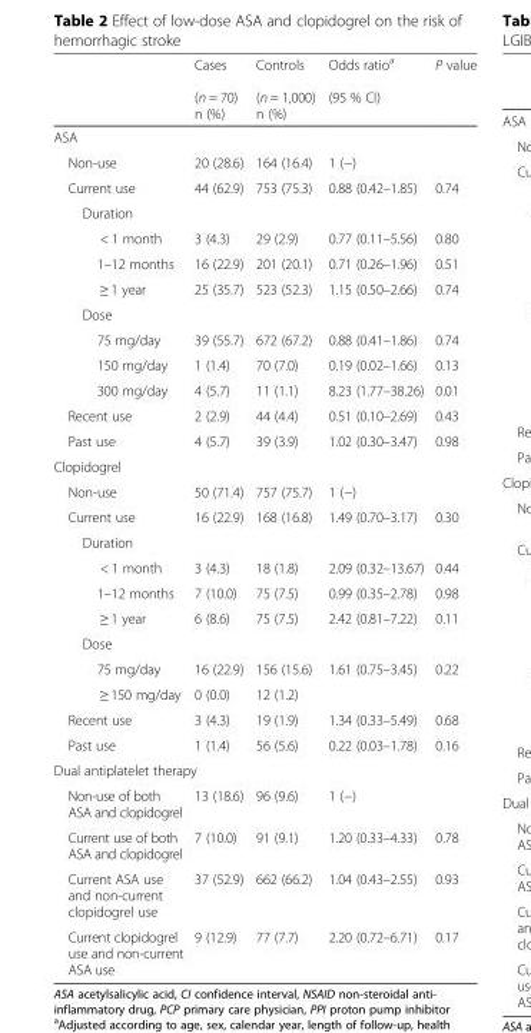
<table><thead><tr><td></td><td>Cases (n = 70) n (%)</td><td>Controls (n = 1,000) n (%)</td><td>Odds ratio<sup>a</sup> (95 % CI)</td><td>P value</td></tr></thead><tbody><tr><td colspan="5">ASA</td></tr><tr><td>Non-use</td><td>20 (28.6)</td><td>164 (16.4)</td><td>1 (−)</td><td></td></tr><tr><td>Current use</td><td>44 (62.9)</td><td>753 (75.3)</td><td>0.88 (0.42–1.85)</td><td>0.74</td></tr><tr><td colspan="5">Duration</td></tr><tr><td>&lt; 1 month</td><td>3 (4.3)</td><td>29 (2.9)</td><td>0.77 (0.11–5.56)</td><td>0.80</td></tr><tr><td>1–12 months</td><td>16 (22.9)</td><td>201 (20.1)</td><td>0.71 (0.26–1.96)</td><td>0.51</td></tr><tr><td>≥ 1 year</td><td>25 (35.7)</td><td>523 (52.3)</td><td>1.15 (0.50–2.66)</td><td>0.74</td></tr><tr><td colspan="5">Dose</td></tr><tr><td>75 mg/day</td><td>39 (55.7)</td><td>672 (67.2)</td><td>0.88 (0.41–1.86)</td><td>0.74</td></tr><tr><td>150 mg/day</td><td>1 (1.4)</td><td>70 (7.0)</td><td>0.19 (0.02–1.66)</td><td>0.13</td></tr><tr><td>300 mg/day</td><td>4 (5.7)</td><td>11 (1.1)</td><td>8.23 (1.77–38.26)</td><td>0.01</td></tr><tr><td>Recent use</td><td>2 (2.9)</td><td>44 (4.4)</td><td>0.51 (0.10–2.69)</td><td>0.43</td></tr><tr><td>Past use</td><td>4 (5.7)</td><td>39 (3.9)</td><td>1.02 (0.30–3.47)</td><td>0.98</td></tr><tr><td colspan="5">Clopidogrel</td></tr><tr><td>Non-use</td><td>50 (71.4)</td><td>757 (75.7)</td><td>1 (−)</td><td></td></tr><tr><td>Current use</td><td>16 (22.9)</td><td>168 (16.8)</td><td>1.49 (0.70–3.17)</td><td>0.30</td></tr><tr><td colspan="5">Duration</td></tr><tr><td>&lt; 1 month</td><td>3 (4.3)</td><td>18 (1.8)</td><td>2.09 (0.32–13.67)</td><td>0.44</td></tr><tr><td>1–12 months</td><td>7 (10.0)</td><td>75 (7.5)</td><td>0.99 (0.35–2.78)</td><td>0.98</td></tr><tr><td>≥ 1 year</td><td>6 (8.6)</td><td>75 (7.5)</td><td>2.42 (0.81–7.22)</td><td>0.11</td></tr><tr><td colspan="5">Dose</td></tr><tr><td>75 mg/day</td><td>16 (22.9)</td><td>156 (15.6)</td><td>1.61 (0.75–3.45)</td><td>0.22</td></tr><tr><td>≥ 150 mg/day</td><td>0 (0.0)</td><td>12 (1.2)</td><td></td><td></td></tr><tr><td>Recent use</td><td>3 (4.3)</td><td>19 (1.9)</td><td>1.34 (0.33–5.49)</td><td>0.68</td></tr><tr><td>Past use</td><td>1 (1.4)</td><td>56 (5.6)</td><td>0.22 (0.03–1.78)</td><td>0.16</td></tr><tr><td colspan="5">Dual antiplatelet therapy</td></tr><tr><td>Non-use of both ASA and clopidogrel</td><td>13 (18.6)</td><td>96 (9.6)</td><td>1 (−)</td><td></td></tr><tr><td>Current use of both ASA and clopidogrel</td><td>7 (10.0)</td><td>91 (9.1)</td><td>1.20 (0.33–4.33)</td><td>0.78</td></tr><tr><td>Current ASA use and non-current clopidogrel use</td><td>37 (52.9)</td><td>662 (66.2)</td><td>1.04 (0.43–2.55)</td><td>0.93</td></tr><tr><td>Current clopidogrel use and non-current ASA use</td><td>9 (12.9)</td><td>77 (7.7)</td><td>2.20 (0.72–6.71)</td><td>0.17</td></tr></tbody></table>